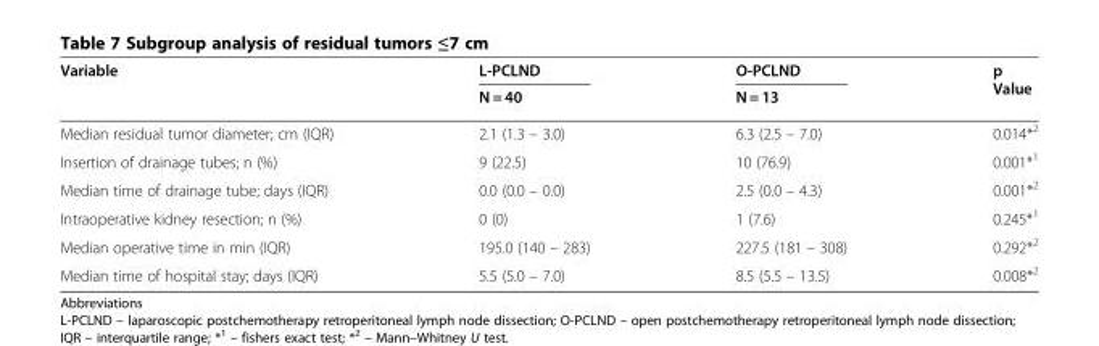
<table><thead><tr><td rowspan="2">Variable</td><td rowspan="2">L-PCLND N = 40</td><td rowspan="2">O-PCLND N = 13</td><td rowspan="2">p Value</td></tr><tr></tr></thead><tbody><tr><td>Median residual tumor diameter; cm (IQR)</td><td>2.1 (1.3 – 3.0)</td><td>6.3 (2.5 – 7.0)</td><td>0.014*<sup>2</sup></td></tr><tr><td>Insertion of drainage tubes; n (%)</td><td>9 (22.5)</td><td>10 (76.9)</td><td>0.001*<sup>1</sup></td></tr><tr><td>Median time of drainage tube; days (IQR)</td><td>0.0 (0.0 – 0.0)</td><td>2.5 (0.0 – 4.3)</td><td>0.001*<sup>2</sup></td></tr><tr><td>Intraoperative kidney resection; n (%)</td><td>0 (0)</td><td>1 (7.6)</td><td>0.245*<sup>1</sup></td></tr><tr><td>Median operative time in min (IQR)</td><td>195.0 (140 – 283)</td><td>227.5 (181 – 308)</td><td>0.292*<sup>2</sup></td></tr><tr><td>Median time of hospital stay; days (IQR)</td><td>5.5 (5.0 – 7.0)</td><td>8.5 (5.5 – 13.5)</td><td>0.008*<sup>2</sup></td></tr></tbody></table>